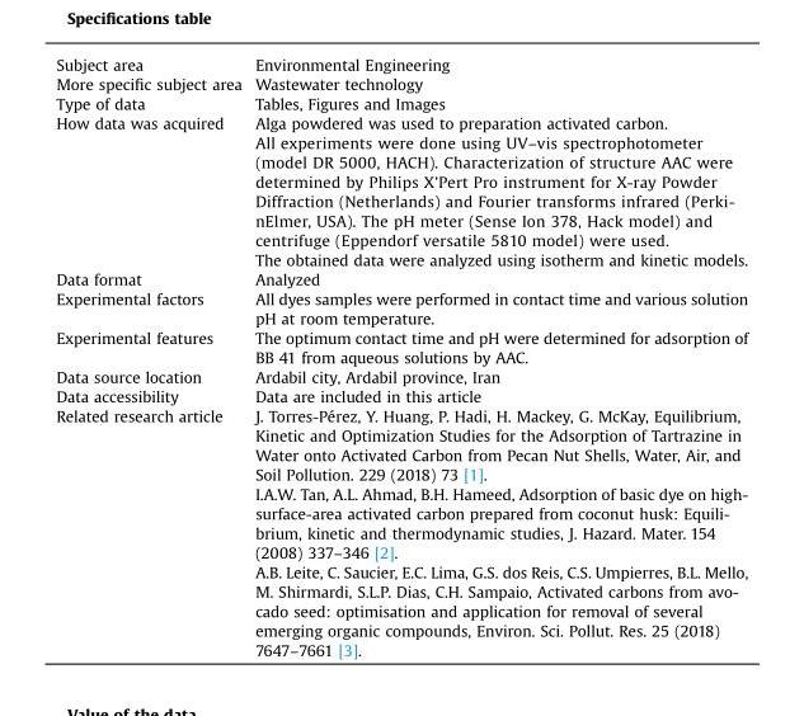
<table><thead><tr><td>Subject area</td><td>Environmental Engineering</td></tr></thead><tbody><tr><td>More specific subject area</td><td>Wastewater technology</td></tr><tr><td>Type of data</td><td>Tables, Figures and Images</td></tr><tr><td rowspan="3">How data was acquired</td><td>Alga powdered was used to preparation activated carbon.</td></tr><tr><td>All experiments were done using UV–vis spectrophotometer (model DR 5000, HACH). Characterization of structure AAC were determined by Philips X’Pert Pro instrument for X-ray Powder Diffraction (Netherlands) and Fourier transforms infrared (Perki- nElmer, USA). The pH meter (Sense Ion 378, Hack model) and centrifuge (Eppendorf versatile 5810 model) were used.</td></tr><tr><td>The obtained data were analyzed using isotherm and kinetic models.</td></tr><tr><td>Data format</td><td>Analyzed</td></tr><tr><td>Experimental factors</td><td>All dyes samples were performed in contact time and various solution pH at room temperature.</td></tr><tr><td>Experimental features</td><td>The optimum contact time and pH were determined for adsorption of BB 41 from aqueous solutions by AAC.</td></tr><tr><td>Data source location</td><td>Ardabil city, Ardabil province, Iran</td></tr><tr><td>Data accessibility</td><td>Data are included in this article</td></tr><tr><td rowspan="3">Related research article</td><td>J. Torres-Pérez, Y. Huang, P. Hadi, H. Mackey, G. McKay, Equilibrium, Kinetic and Optimization Studies for the Adsorption of Tartrazine in Water onto Activated Carbon from Pecan Nut Shells, Water, Air, and Soil Pollution. 229 (2018) 73 [1].</td></tr><tr><td>I.A.W. Tan, A.L. Ahmad, B.H. Hameed, Adsorption of basic dye on high- surface-area activated carbon prepared from coconut husk: Equili- brium, kinetic and thermodynamic studies, J. Hazard. Mater. 154 (2008) 337–346 [2].</td></tr><tr><td>A.B. Leite, C. Saucier, E.C. Lima, G.S. dos Reis, C.S. Umpierres, B.L. Mello, M. Shirmardi, S.L.P. Dias, C.H. Sampaio, Activated carbons from avo- cado seed: optimisation and application for removal of several emerging organic compounds, Environ. Sci. Pollut. Res. 25 (2018) 7647–7661 [3].</td></tr></tbody></table>